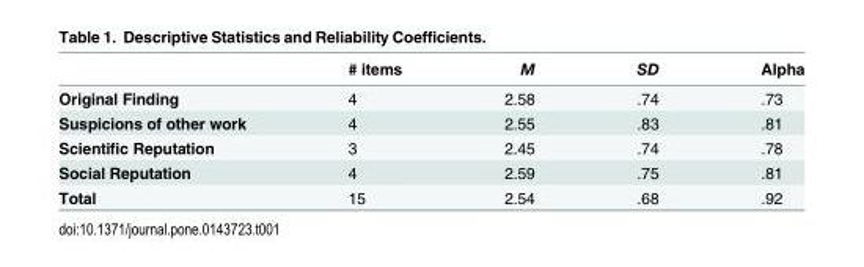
<table><thead><tr><td></td><td># items</td><td>M</td><td>SD</td><td>Alpha</td></tr></thead><tbody><tr><td>Original Finding</td><td>4</td><td>2.58</td><td>.74</td><td>.73</td></tr><tr><td>Suspicions of other work</td><td>4</td><td>2.55</td><td>.83</td><td>.81</td></tr><tr><td>Scientific Reputation</td><td>3</td><td>2.45</td><td>.74</td><td>.78</td></tr><tr><td>Social Reputation</td><td>4</td><td>2.59</td><td>.75</td><td>.81</td></tr><tr><td>Total</td><td>15</td><td>2.54</td><td>.68</td><td>.92</td></tr></tbody></table>